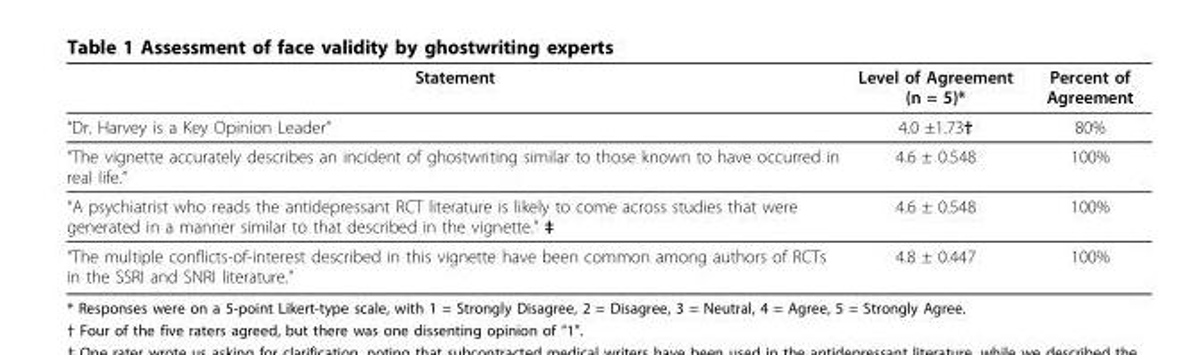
<table><thead><tr><td>Statement</td><td>Level of Agreement (n = 5)*</td><td>Percent of Agreement</td></tr></thead><tbody><tr><td>“Dr. Harvey is a Key Opinion Leader”</td><td>4.0 ±1.73†</td><td>80%</td></tr><tr><td>“The vignette accurately describes an incident of ghostwriting similar to those known to have occurred in real life.”</td><td>4.6 ± 0.548</td><td>100%</td></tr><tr><td>“A psychiatrist who reads the antidepressant RCT literature is likely to come across studies that were generated in a manner similar to that described in the vignette.” ‡</td><td>4.6 ± 0.548</td><td>100%</td></tr><tr><td>“The multiple conflicts-of-interest described in this vignette have been common among authors of RCTs in the SSRI and SNRI literature.”</td><td>4.8 ± 0.447</td><td>100%</td></tr></tbody></table>